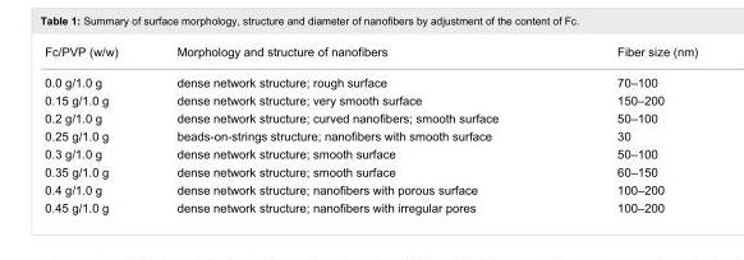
<table><tbody><tr><td>Fc/PVP (w/w)</td><td>Morphology and structure of nanofibers</td><td>Fiber size (nm)</td></tr><tr><td>0.0 g/1.0 g</td><td>dense network structure; rough surface</td><td>70–100</td></tr><tr><td>0.15 g/1.0 g</td><td>dense network structure; very smooth surface</td><td>150–200</td></tr><tr><td>0.2 g/1.0 g</td><td>dense network structure; curved nanofibers; smooth surface</td><td>50–100</td></tr><tr><td>0.25 g/1.0 g</td><td>beads-on-strings structure; nanofibers with smooth surface</td><td>30</td></tr><tr><td>0.3 g/1.0 g</td><td>dense network structure; smooth surface</td><td>50–100</td></tr><tr><td>0.35 g/1.0 g</td><td>dense network structure; smooth surface</td><td>60–150</td></tr><tr><td>0.4 g/1.0 g</td><td>dense network structure; nanofibers with porous surface</td><td>100–200</td></tr><tr><td>0.45 g/1.0 g</td><td>dense network structure; nanofibers with irregular pores</td><td>100–200</td></tr></tbody></table>